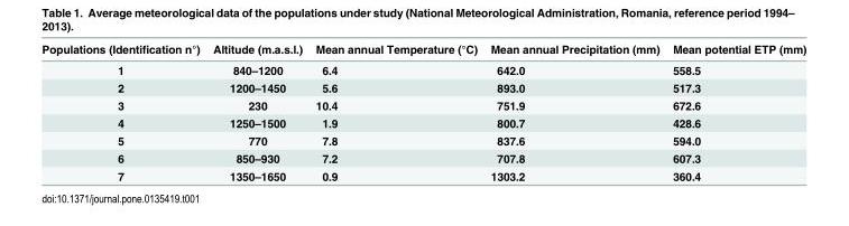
<table><thead><tr><td>Populations (Identification n°)</td><td>Altitude (m.a.s.l.)</td><td>Mean annual Temperature (°C)</td><td>Mean annual Precipitation (mm)</td><td>Mean potential ETP (mm)</td></tr></thead><tbody><tr><td>1</td><td>840–1200</td><td>6.4</td><td>642.0</td><td>558.5</td></tr><tr><td>2</td><td>1200–1450</td><td>5.6</td><td>893.0</td><td>517.3</td></tr><tr><td>3</td><td>230</td><td>10.4</td><td>751.9</td><td>672.6</td></tr><tr><td>4</td><td>1250–1500</td><td>1.9</td><td>800.7</td><td>428.6</td></tr><tr><td>5</td><td>770</td><td>7.8</td><td>837.6</td><td>594.0</td></tr><tr><td>6</td><td>850–930</td><td>7.2</td><td>707.8</td><td>607.3</td></tr><tr><td>7</td><td>1350–1650</td><td>0.9</td><td>1303.2</td><td>360.4</td></tr></tbody></table>